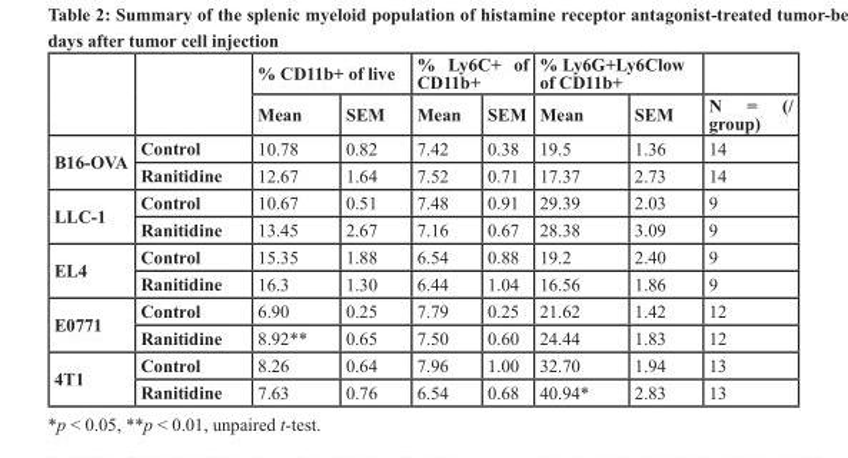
<table><thead><tr><td rowspan="2"></td><td rowspan="2"></td><td colspan="2">% CD11b+ of live</td><td colspan="2">% Ly6C+ of CD11b+</td><td colspan="2">% Ly6G+Ly6Clow of CD11b+</td><td rowspan="2">N = (/ group)</td></tr><tr><td>Mean</td><td>SEM</td><td>Mean</td><td>SEM</td><td>Mean</td><td>SEM</td></tr></thead><tbody><tr><td rowspan="2">B16-OVA</td><td>Control</td><td>10.78</td><td>0.82</td><td>7.42</td><td>0.38</td><td>19.5</td><td>1.36</td><td>14</td></tr><tr><td>Ranitidine</td><td>12.67</td><td>1.64</td><td>7.52</td><td>0.71</td><td>17.37</td><td>2.73</td><td>14</td></tr><tr><td rowspan="2">LLC-1</td><td>Control</td><td>10.67</td><td>0.51</td><td>7.48</td><td>0.91</td><td>29.39</td><td>2.03</td><td>9</td></tr><tr><td>Ranitidine</td><td>13.45</td><td>2.67</td><td>7.16</td><td>0.67</td><td>28.38</td><td>3.09</td><td>9</td></tr><tr><td rowspan="2">EL4</td><td>Control</td><td>15.35</td><td>1.88</td><td>6.54</td><td>0.88</td><td>19.2</td><td>2.40</td><td>9</td></tr><tr><td>Ranitidine</td><td>16.3</td><td>1.30</td><td>6.44</td><td>1.04</td><td>16.56</td><td>1.86</td><td>9</td></tr><tr><td rowspan="2">E0771</td><td>Control</td><td>6.90</td><td>0.25</td><td>7.79</td><td>0.25</td><td>21.62</td><td>1.42</td><td>12</td></tr><tr><td>Ranitidine</td><td>8.92**</td><td>0.65</td><td>7.50</td><td>0.60</td><td>24.44</td><td>1.83</td><td>12</td></tr><tr><td rowspan="2">4T1</td><td>Control</td><td>8.26</td><td>0.64</td><td>7.96</td><td>1.00</td><td>32.70</td><td>1.94</td><td>13</td></tr><tr><td>Ranitidine</td><td>7.63</td><td>0.76</td><td>6.54</td><td>0.68</td><td>40.94*</td><td>2.83</td><td>13</td></tr></tbody></table>